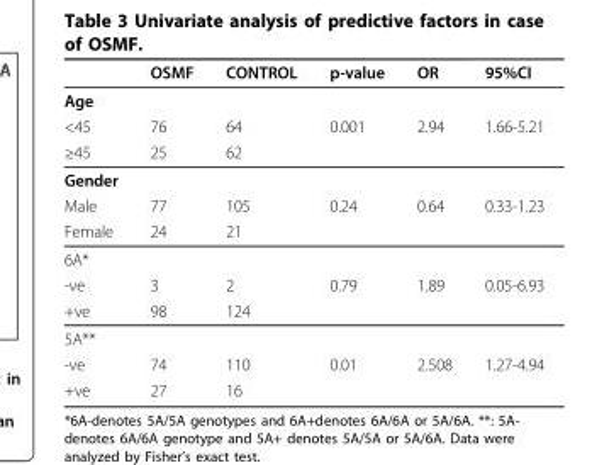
<table><thead><tr><td></td><td>OSMF</td><td>CONTROL</td><td>p-value</td><td>OR</td><td>95%CI</td></tr></thead><tbody><tr><td colspan="6">Age</td></tr><tr><td>&lt;45</td><td>76</td><td>64</td><td>0.001</td><td>2.94</td><td>1.66-5.21</td></tr><tr><td>≥45</td><td>25</td><td>62</td><td></td><td></td><td></td></tr><tr><td colspan="6">Gender</td></tr><tr><td>Male</td><td>77</td><td>105</td><td>0.24</td><td>0.64</td><td>0.33-1.23</td></tr><tr><td>Female</td><td>24</td><td>21</td><td></td><td></td><td></td></tr><tr><td colspan="6">6A*</td></tr><tr><td>-ve</td><td>3</td><td>2</td><td>0.79</td><td>1.89</td><td>0.05-6.93</td></tr><tr><td>+ve</td><td>98</td><td>124</td><td></td><td></td><td></td></tr><tr><td colspan="6">5A**</td></tr><tr><td>-ve</td><td>74</td><td>110</td><td>0.01</td><td>2.508</td><td>1.27-4.94</td></tr><tr><td>+ve</td><td>27</td><td>16</td><td></td><td></td><td></td></tr></tbody></table>